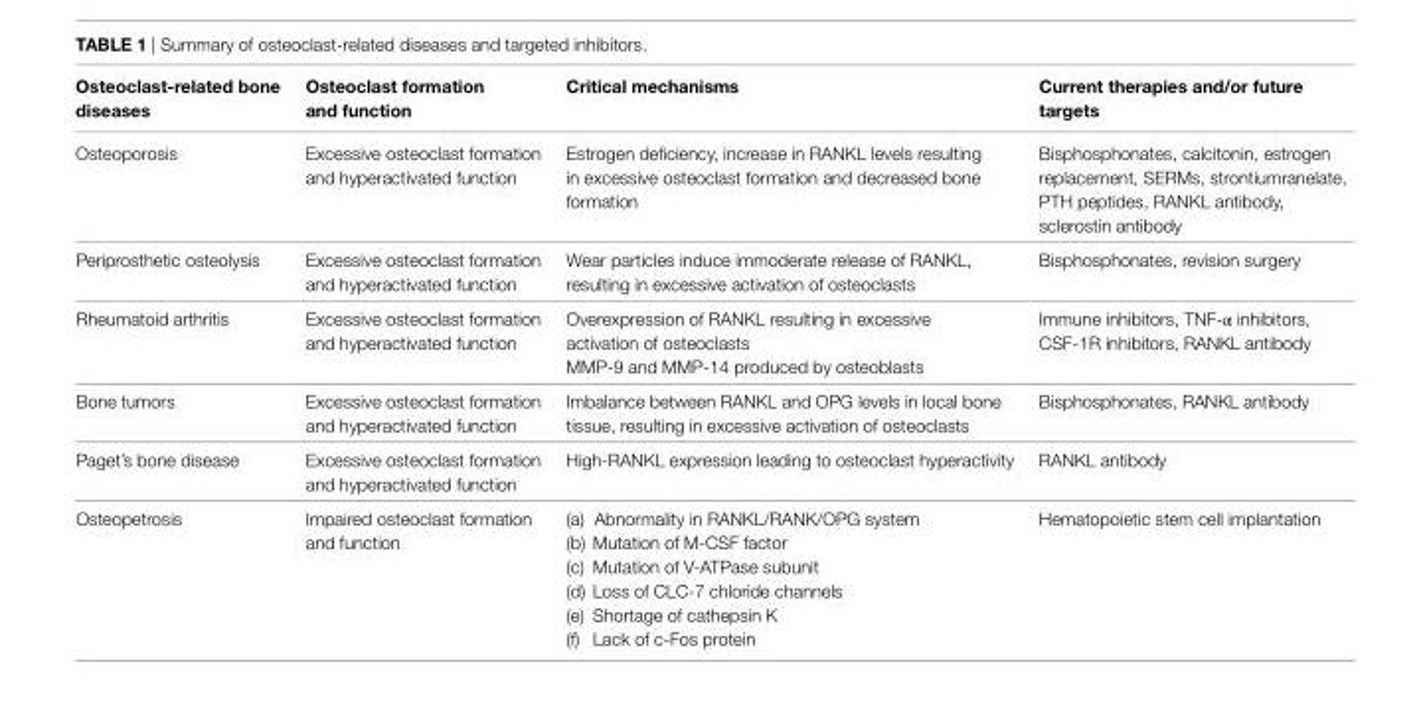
<table><thead><tr><td>Osteoclast-related bone diseases</td><td>Osteoclast formation and function</td><td>Critical mechanisms</td><td>Current therapies and/or future targets</td></tr></thead><tbody><tr><td>Osteoporosis</td><td>Excessive osteoclast formation and hyperactivated function</td><td>Estrogen deficiency, increase in RANKL levels resulting in excessive osteoclast formation and decreased bone formation</td><td>Bisphosphonates, calcitonin, estrogen replacement, SERMs, strontiumranelate, PTH peptides, RANKL antibody, sclerostin antibody</td></tr><tr><td>Periprosthetic osteolysis</td><td>Excessive osteoclast formation and hyperactivated function</td><td>Wear particles induce immoderate release of RANKL, resulting in excessive activation of osteoclasts</td><td>Bisphosphonates, revision surgery</td></tr><tr><td>Rheumatoid arthritis</td><td>Excessive osteoclast formation and hyperactivated function</td><td>Overexpression of RANKL resulting in excessive activation of osteoclasts MMP-9 and MMP-14 produced by osteoblasts</td><td>Immune inhibitors, TNF-α inhibitors, CSF-1R inhibitors, RANKL antibody</td></tr><tr><td>Bone tumors</td><td>Excessive osteoclast formation and hyperactivated function</td><td>Imbalance between RANKL and OPG levels in local bone tissue, resulting in excessive activation of osteoclasts</td><td>Bisphosphonates, RANKL antibody</td></tr><tr><td>Paget’s bone disease</td><td>Excessive osteoclast formation and hyperactivated function</td><td>High-RANKL expression leading to osteoclast hyperactivity</td><td>RANKL antibody</td></tr><tr><td>Osteopetrosis</td><td>Impaired osteoclast formation and function</td><td>(a) Abnormality in RANKL/RANK/OPG system (b) Mutation of M-CSF factor (c) Mutation of V-ATPase subunit (d) Loss of CLC-7 chloride channels (e) Shortage of cathepsin K (f) Lack of c-Fos protein</td><td>Hematopoietic stem cell implantation</td></tr></tbody></table>